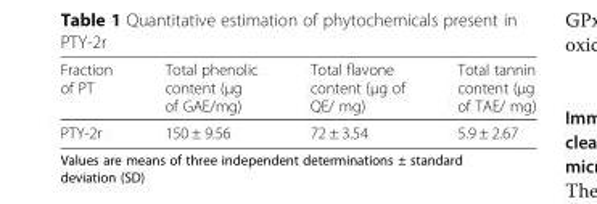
<table><thead><tr><td>Fraction of PT</td><td>Total phenolic content (μg of GAE/mg)</td><td>Total flavone content (μg of QE/ mg)</td><td>Total tannin content (μg of TAE/ mg)</td></tr></thead><tbody><tr><td>PTY-2r</td><td>150 ± 9.56</td><td>72 ± 3.54</td><td>5.9 ± 2.67</td></tr></tbody></table>